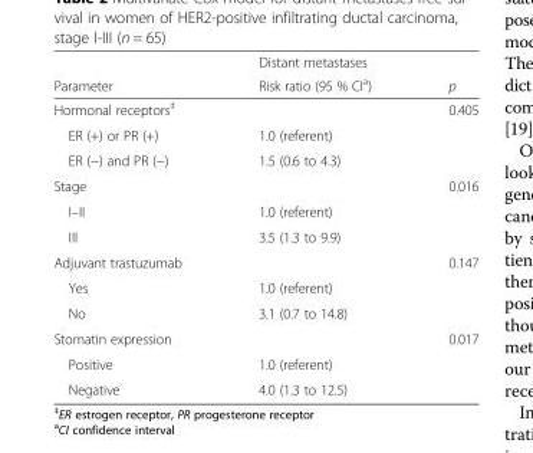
<table><thead><tr><td rowspan="2">Parameter</td><td rowspan="2">Distant metastases Risk ratio (95 % CI<sup>a</sup>)</td><td rowspan="2">p</td></tr><tr></tr></thead><tbody><tr><td>Hormonal receptors<sup>‡</sup></td><td></td><td>0.405</td></tr><tr><td>ER (+) or PR (+)</td><td>1.0 (referent)</td><td></td></tr><tr><td>ER (−) and PR (−)</td><td>1.5 (0.6 to 4.3)</td><td></td></tr><tr><td>Stage</td><td></td><td>0.016</td></tr><tr><td>I–II</td><td>1.0 (referent)</td><td></td></tr><tr><td>III</td><td>3.5 (1.3 to 9.9)</td><td></td></tr><tr><td>Adjuvant trastuzumab</td><td></td><td>0.147</td></tr><tr><td>Yes</td><td>1.0 (referent)</td><td></td></tr><tr><td>No</td><td>3.1 (0.7 to 14.8)</td><td></td></tr><tr><td>Stomatin expression</td><td></td><td>0.017</td></tr><tr><td>Positive</td><td>1.0 (referent)</td><td></td></tr><tr><td>Negative</td><td>4.0 (1.3 to 12.5)</td><td></td></tr></tbody></table>